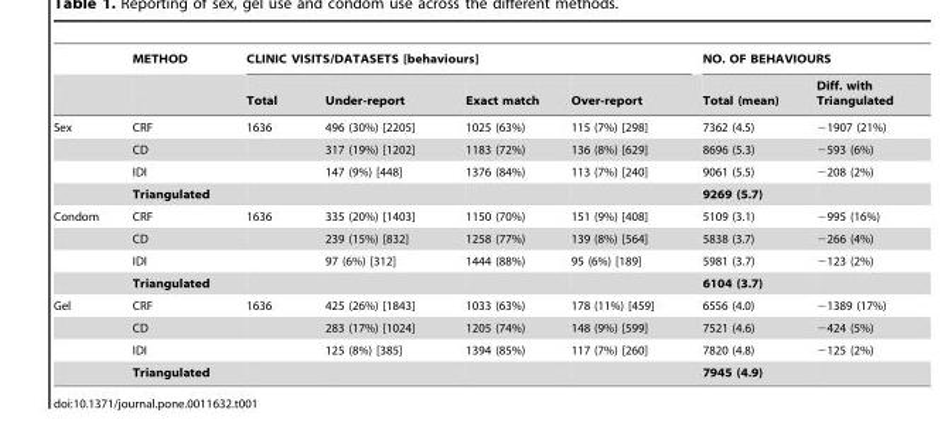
<table><thead><tr><td rowspan="2"></td><td rowspan="2">METHOD</td><td colspan="4">CLINIC VISITS/DATASETS [behaviours]</td><td colspan="2">NO. OF BEHAVIOURS</td></tr><tr><td>Total</td><td>Under-report</td><td>Exact match</td><td>Over-report</td><td>Total (mean)</td><td>Diff. with Triangulated</td></tr></thead><tbody><tr><td rowspan="4">Sex</td><td>CRF</td><td>1636</td><td>496 (30%) [2205]</td><td>1025 (63%)</td><td>115 (7%) [298]</td><td>7362 (4.5)</td><td>−1907 (21%)</td></tr><tr><td>CD</td><td></td><td>317 (19%) [1202]</td><td>1183 (72%)</td><td>136 (8%) [629]</td><td>8696 (5.3)</td><td>−593 (6%)</td></tr><tr><td>IDI</td><td></td><td>147 (9%) [448]</td><td>1376 (84%)</td><td>113 (7%) [240]</td><td>9061 (5.5)</td><td>−208 (2%)</td></tr><tr><td>Triangulated</td><td></td><td></td><td></td><td></td><td>9269 (5.7)</td><td></td></tr><tr><td rowspan="4">Condom</td><td>CRF</td><td>1636</td><td>335 (20%) [1403]</td><td>1150 (70%)</td><td>151 (9%) [408]</td><td>5109 (3.1)</td><td>−995 (16%)</td></tr><tr><td>CD</td><td></td><td>239 (15%) [832]</td><td>1258 (77%)</td><td>139 (8%) [564]</td><td>5838 (3.7)</td><td>−266 (4%)</td></tr><tr><td>IDI</td><td></td><td>97 (6%) [312]</td><td>1444 (88%)</td><td>95 (6%) [189]</td><td>5981 (3.7)</td><td>−123 (2%)</td></tr><tr><td>Triangulated</td><td></td><td></td><td></td><td></td><td>6104 (3.7)</td><td></td></tr><tr><td rowspan="4">Gel</td><td>CRF</td><td>1636</td><td>425 (26%) [1843]</td><td>1033 (63%)</td><td>178 (11%) [459]</td><td>6556 (4.0)</td><td>−1389 (17%)</td></tr><tr><td>CD</td><td></td><td>283 (17%) [1024]</td><td>1205 (74%)</td><td>148 (9%) [599]</td><td>7521 (4.6)</td><td>−424 (5%)</td></tr><tr><td>IDI</td><td></td><td>125 (8%) [385]</td><td>1394 (85%)</td><td>117 (7%) [260]</td><td>7820 (4.8)</td><td>−125 (2%)</td></tr><tr><td>Triangulated</td><td></td><td></td><td></td><td></td><td>7945 (4.9)</td><td></td></tr></tbody></table>